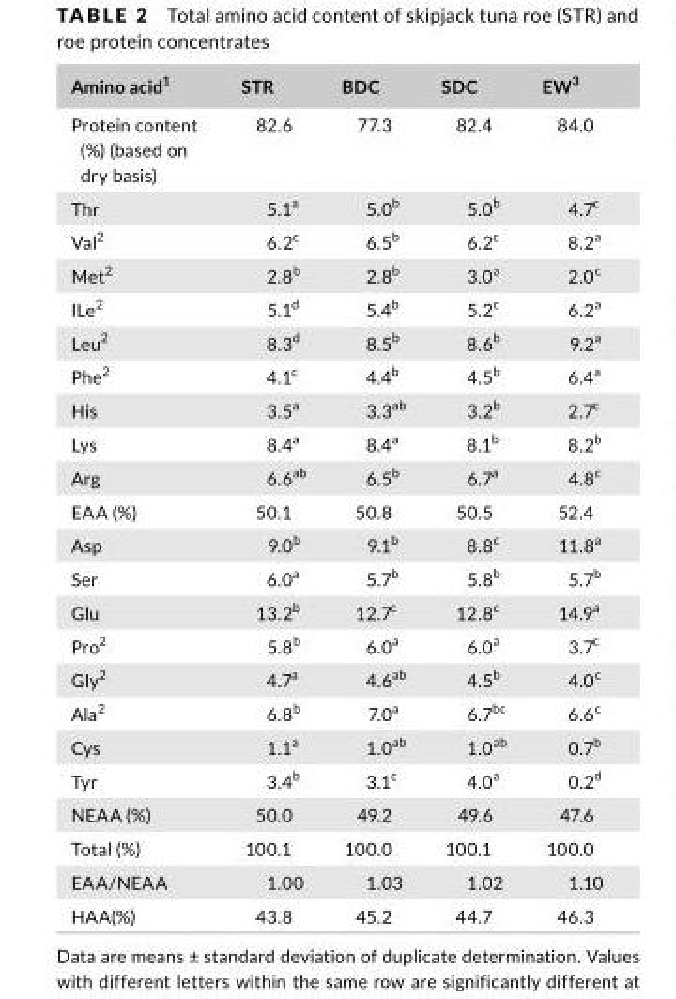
<table><thead><tr><td>Amino acid1</td><td>STR</td><td>BDC</td><td>SDC</td><td>EW3</td></tr></thead><tbody><tr><td>Protein content (%) (based on dry basis)</td><td>82.6</td><td>77.3</td><td>82.4</td><td>84.0</td></tr><tr><td>Thr</td><td>5.1<sup>a</sup></td><td>5.0<sup>b</sup></td><td>5.0<sup>b</sup></td><td>4.7<sup>c</sup></td></tr><tr><td>Val2</td><td>6.2<sup>c</sup></td><td>6.5<sup>b</sup></td><td>6.2<sup>c</sup></td><td>8.2<sup>a</sup></td></tr><tr><td>Met2</td><td>2.8<sup>b</sup></td><td>2.8<sup>b</sup></td><td>3.0<sup>a</sup></td><td>2.0<sup>c</sup></td></tr><tr><td>ILe2</td><td>5.1<sup>d</sup></td><td>5.4<sup>b</sup></td><td>5.2<sup>c</sup></td><td>6.2<sup>a</sup></td></tr><tr><td>Leu2</td><td>8.3<sup>d</sup></td><td>8.5<sup>b</sup></td><td>8.6<sup>b</sup></td><td>9.2<sup>a</sup></td></tr><tr><td>Phe2</td><td>4.1<sup>c</sup></td><td>4.4<sup>b</sup></td><td>4.5<sup>b</sup></td><td>6.4<sup>a</sup></td></tr><tr><td>His</td><td>3.5<sup>a</sup></td><td>3.3<sup>ab</sup></td><td>3.2<sup>b</sup></td><td>2.7<sup>c</sup></td></tr><tr><td>Lys</td><td>8.4<sup>a</sup></td><td>8.4<sup>a</sup></td><td>8.1<sup>b</sup></td><td>8.2<sup>b</sup></td></tr><tr><td>Arg</td><td>6.6<sup>ab</sup></td><td>6.5<sup>b</sup></td><td>6.7<sup>a</sup></td><td>4.8<sup>c</sup></td></tr><tr><td>EAA (%)</td><td>50.1</td><td>50.8</td><td>50.5</td><td>52.4</td></tr><tr><td>Asp</td><td>9.0<sup>b</sup></td><td>9.1<sup>b</sup></td><td>8.8<sup>c</sup></td><td>11.8<sup>a</sup></td></tr><tr><td>Ser</td><td>6.0<sup>a</sup></td><td>5.7<sup>b</sup></td><td>5.8<sup>b</sup></td><td>5.7<sup>b</sup></td></tr><tr><td>Glu</td><td>13.2<sup>b</sup></td><td>12.7<sup>c</sup></td><td>12.8<sup>c</sup></td><td>14.9<sup>a</sup></td></tr><tr><td>Pro2</td><td>5.8<sup>b</sup></td><td>6.0<sup>a</sup></td><td>6.0<sup>a</sup></td><td>3.7<sup>c</sup></td></tr><tr><td>Gly2</td><td>4.7<sup>a</sup></td><td>4.6<sup>ab</sup></td><td>4.5<sup>b</sup></td><td>4.0<sup>c</sup></td></tr><tr><td>Ala2</td><td>6.8<sup>b</sup></td><td>7.0<sup>a</sup></td><td>6.7<sup>bc</sup></td><td>6.6<sup>c</sup></td></tr><tr><td>Cys</td><td>1.1<sup>a</sup></td><td>1.0<sup>ab</sup></td><td>1.0<sup>ab</sup></td><td>0.7<sup>b</sup></td></tr><tr><td>Tyr</td><td>3.4<sup>b</sup></td><td>3.1<sup>c</sup></td><td>4.0<sup>a</sup></td><td>0.2<sup>d</sup></td></tr><tr><td>NEAA (%)</td><td>50.0</td><td>49.2</td><td>49.6</td><td>47.6</td></tr><tr><td>Total (%)</td><td>100.1</td><td>100.0</td><td>100.1</td><td>100.0</td></tr><tr><td>EAA/NEAA</td><td>1.00</td><td>1.03</td><td>1.02</td><td>1.10</td></tr><tr><td>HAA(%)</td><td>43.8</td><td>45.2</td><td>44.7</td><td>46.3</td></tr></tbody></table>